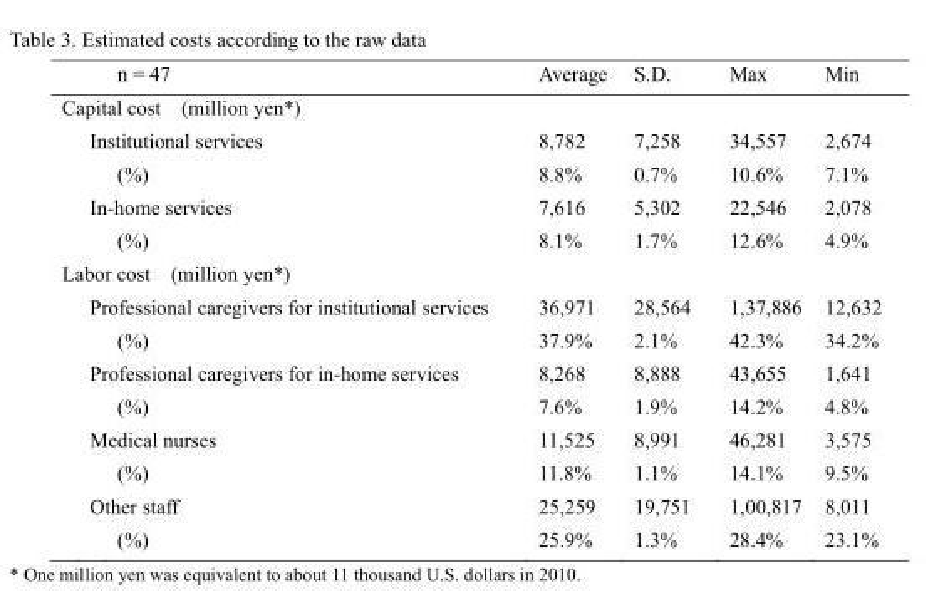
<table><thead><tr><td>n = 47</td><td>Average</td><td>S.D.</td><td>Max</td><td>Min</td></tr></thead><tbody><tr><td colspan="5">Capital cost (million yen*)</td></tr><tr><td>Institutional services</td><td>8,782</td><td>7,258</td><td>34,557</td><td>2,674</td></tr><tr><td>(%)</td><td>8.8%</td><td>0.7%</td><td>10.6%</td><td>7.1%</td></tr><tr><td>In-home services</td><td>7,616</td><td>5,302</td><td>22,546</td><td>2,078</td></tr><tr><td>(%)</td><td>8.1%</td><td>1.7%</td><td>12.6%</td><td>4.9%</td></tr><tr><td colspan="5">Labor cost (million yen*)</td></tr><tr><td>Professional caregivers for institutional services</td><td>36,971</td><td>28,564</td><td>1,37,886</td><td>12,632</td></tr><tr><td>(%)</td><td>37.9%</td><td>2.1%</td><td>42.3%</td><td>34.2%</td></tr><tr><td>Professional caregivers for in-home services</td><td>8,268</td><td>8,888</td><td>43,655</td><td>1,641</td></tr><tr><td>(%)</td><td>7.6%</td><td>1.9%</td><td>14.2%</td><td>4.8%</td></tr><tr><td>Medical nurses</td><td>11,525</td><td>8,991</td><td>46,281</td><td>3,575</td></tr><tr><td>(%)</td><td>11.8%</td><td>1.1%</td><td>14.1%</td><td>9.5%</td></tr><tr><td>Other staff</td><td>25,259</td><td>19,751</td><td>1,00,817</td><td>8,011</td></tr><tr><td>(%)</td><td>25.9%</td><td>1.3%</td><td>28.4%</td><td>23.1%</td></tr></tbody></table>